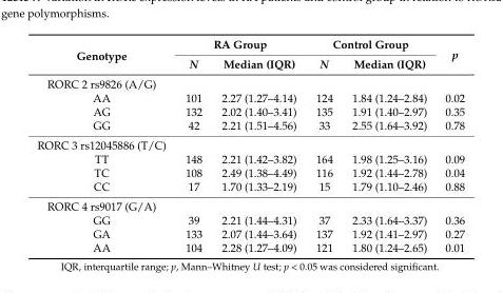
<table><thead><tr><td rowspan="2">Genotype</td><td colspan="2">RA Group</td><td colspan="2">Control Group</td><td rowspan="2">p</td></tr><tr><td>N</td><td>Median (IQR)</td><td>N</td><td>Median (IQR)</td></tr></thead><tbody><tr><td colspan="6">RORC 2 rs9826 (A/G)</td></tr><tr><td>AA</td><td>101</td><td>2.27 (1.27–4.14)</td><td>124</td><td>1.84 (1.24–2.84)</td><td>0.02</td></tr><tr><td>AG</td><td>132</td><td>2.02 (1.40–3.41)</td><td>135</td><td>1.91 (1.40–2.97)</td><td>0.35</td></tr><tr><td>GG</td><td>42</td><td>2.21 (1.51–4.56)</td><td>33</td><td>2.55 (1.64–3.92)</td><td>0.78</td></tr><tr><td colspan="6">RORC 3 rs12045886 (T/C)</td></tr><tr><td>TT</td><td>148</td><td>2.21 (1.42–3.82)</td><td>164</td><td>1.98 (1.25–3.16)</td><td>0.09</td></tr><tr><td>TC</td><td>108</td><td>2.49 (1.38–4.49)</td><td>116</td><td>1.92 (1.44–2.78)</td><td>0.04</td></tr><tr><td>CC</td><td>17</td><td>1.70 (1.33–2.19)</td><td>15</td><td>1.79 (1.10–2.46)</td><td>0.88</td></tr><tr><td colspan="6">RORC 4 rs9017 (G/A)</td></tr><tr><td>GG</td><td>39</td><td>2.21 (1.44–4.31)</td><td>37</td><td>2.33 (1.64–3.37)</td><td>0.36</td></tr><tr><td>GA</td><td>133</td><td>2.07 (1.44–3.64)</td><td>137</td><td>1.92 (1.41–2.97)</td><td>0.27</td></tr><tr><td>AA</td><td>104</td><td>2.28 (1.27–4.09)</td><td>121</td><td>1.80 (1.24–2.65)</td><td>0.01</td></tr></tbody></table>